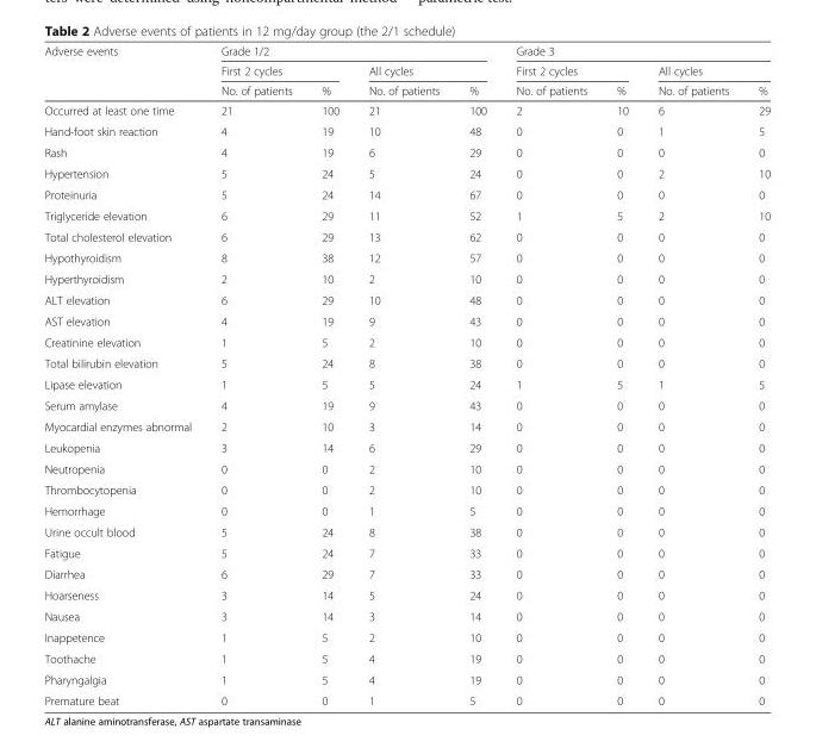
<table><thead><tr><td rowspan="3">Adverse events</td><td colspan="4">Grade 1/2</td><td colspan="4">Grade 3</td></tr><tr><td colspan="2">First 2 cycles</td><td colspan="2">All cycles</td><td colspan="2">First 2 cycles</td><td colspan="2">All cycles</td></tr><tr><td>No. of patients</td><td>%</td><td>No. of patients</td><td>%</td><td>No. of patients</td><td>%</td><td>No. of patients</td><td>%</td></tr></thead><tbody><tr><td>Occurred at least one time</td><td>21</td><td>100</td><td>21</td><td>100</td><td>2</td><td>10</td><td>6</td><td>29</td></tr><tr><td>Hand-foot skin reaction</td><td>4</td><td>19</td><td>10</td><td>48</td><td>0</td><td>0</td><td>1</td><td>5</td></tr><tr><td>Rash</td><td>4</td><td>19</td><td>6</td><td>29</td><td>0</td><td>0</td><td>0</td><td>0</td></tr><tr><td>Hypertension</td><td>5</td><td>24</td><td>5</td><td>24</td><td>0</td><td>0</td><td>2</td><td>10</td></tr><tr><td>Proteinuria</td><td>5</td><td>24</td><td>14</td><td>67</td><td>0</td><td>0</td><td>0</td><td>0</td></tr><tr><td>Triglyceride elevation</td><td>6</td><td>29</td><td>11</td><td>52</td><td>1</td><td>5</td><td>2</td><td>10</td></tr><tr><td>Total cholesterol elevation</td><td>6</td><td>29</td><td>13</td><td>62</td><td>0</td><td>0</td><td>0</td><td>0</td></tr><tr><td>Hypothyroidism</td><td>8</td><td>38</td><td>12</td><td>57</td><td>0</td><td>0</td><td>0</td><td>0</td></tr><tr><td>Hyperthyroidism</td><td>2</td><td>10</td><td>2</td><td>10</td><td>0</td><td>0</td><td>0</td><td>0</td></tr><tr><td>ALT elevation</td><td>6</td><td>29</td><td>10</td><td>48</td><td>0</td><td>0</td><td>0</td><td>0</td></tr><tr><td>AST elevation</td><td>4</td><td>19</td><td>9</td><td>43</td><td>0</td><td>0</td><td>0</td><td>0</td></tr><tr><td>Creatinine elevation</td><td>1</td><td>5</td><td>2</td><td>10</td><td>0</td><td>0</td><td>0</td><td>0</td></tr><tr><td>Total bilirubin elevation</td><td>5</td><td>24</td><td>8</td><td>38</td><td>0</td><td>0</td><td>0</td><td>0</td></tr><tr><td>Lipase elevation</td><td>1</td><td>5</td><td>5</td><td>24</td><td>1</td><td>5</td><td>1</td><td>5</td></tr><tr><td>Serum amylase</td><td>4</td><td>19</td><td>9</td><td>43</td><td>0</td><td>0</td><td>0</td><td>0</td></tr><tr><td>Myocardial enzymes abnormal</td><td>2</td><td>10</td><td>3</td><td>14</td><td>0</td><td>0</td><td>0</td><td>0</td></tr><tr><td>Leukopenia</td><td>3</td><td>14</td><td>6</td><td>29</td><td>0</td><td>0</td><td>0</td><td>0</td></tr><tr><td>Neutropenia</td><td>0</td><td>0</td><td>2</td><td>10</td><td>0</td><td>0</td><td>0</td><td>0</td></tr><tr><td>Thrombocytopenia</td><td>0</td><td>0</td><td>2</td><td>10</td><td>0</td><td>0</td><td>0</td><td>0</td></tr><tr><td>Hemorrhage</td><td>0</td><td>0</td><td>1</td><td>5</td><td>0</td><td>0</td><td>0</td><td>0</td></tr><tr><td>Urine occult blood</td><td>5</td><td>24</td><td>8</td><td>38</td><td>0</td><td>0</td><td>0</td><td>0</td></tr><tr><td>Fatigue</td><td>5</td><td>24</td><td>7</td><td>33</td><td>0</td><td>0</td><td>0</td><td>0</td></tr><tr><td>Diarrhea</td><td>6</td><td>29</td><td>7</td><td>33</td><td>0</td><td>0</td><td>0</td><td>0</td></tr><tr><td>Hoarseness</td><td>3</td><td>14</td><td>5</td><td>24</td><td>0</td><td>0</td><td>0</td><td>0</td></tr><tr><td>Nausea</td><td>3</td><td>14</td><td>3</td><td>14</td><td>0</td><td>0</td><td>0</td><td>0</td></tr><tr><td>Inappetence</td><td>1</td><td>5</td><td>2</td><td>10</td><td>0</td><td>0</td><td>0</td><td>0</td></tr><tr><td>Toothache</td><td>1</td><td>5</td><td>4</td><td>19</td><td>0</td><td>0</td><td>0</td><td>0</td></tr><tr><td>Pharyngalgia</td><td>1</td><td>5</td><td>4</td><td>19</td><td>0</td><td>0</td><td>0</td><td>0</td></tr><tr><td>Premature beat</td><td>0</td><td>0</td><td>1</td><td>5</td><td>0</td><td>0</td><td>0</td><td>0</td></tr></tbody></table>